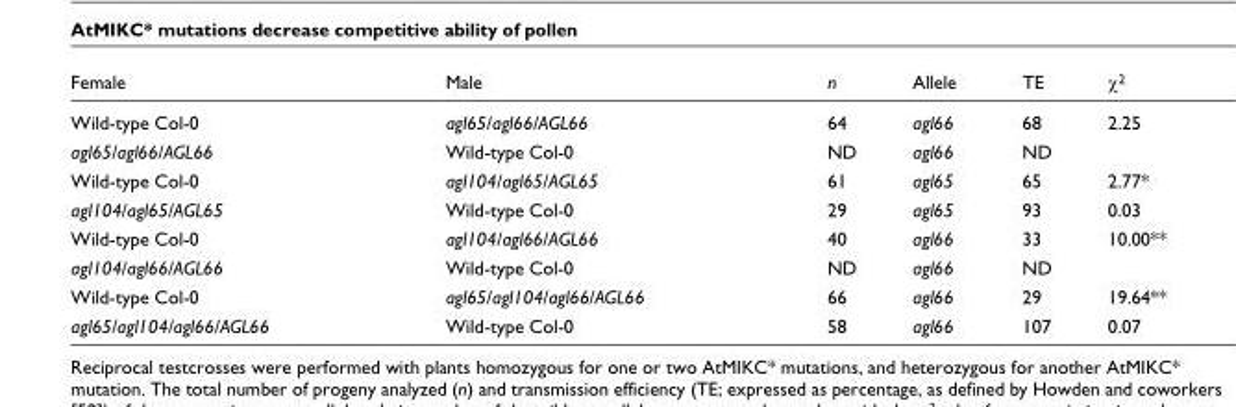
<table><thead><tr><td>Female</td><td>Male</td><td>n</td><td>Allele</td><td>TE</td><td>χ<sup>2</sup></td></tr></thead><tbody><tr><td>Wild-type Col-0</td><td>agl65/agl66/AGL66</td><td>64</td><td>agl66</td><td>68</td><td>2.25</td></tr><tr><td>agl65/agl66/AGL66</td><td>Wild-type Col-0</td><td>ND</td><td>agl66</td><td>ND</td><td></td></tr><tr><td>Wild-type Col-0</td><td>agl104/agl65/AGL65</td><td>61</td><td>agl65</td><td>65</td><td>2.77*</td></tr><tr><td>agl104/agl65/AGL65</td><td>Wild-type Col-0</td><td>29</td><td>agl65</td><td>93</td><td>0.03</td></tr><tr><td>Wild-type Col-0</td><td>agl104/agl66/AGL66</td><td>40</td><td>agl66</td><td>33</td><td>10.00**</td></tr><tr><td>agl104/agl66/AGL66</td><td>Wild-type Col-0</td><td>ND</td><td>agl66</td><td>ND</td><td></td></tr><tr><td>Wild-type Col-0</td><td>agl65/agl104/agl66/AGL66</td><td>66</td><td>agl66</td><td>29</td><td>19.64**</td></tr><tr><td>agl65/agl104/agl66/AGL66</td><td>Wild-type Col-0</td><td>58</td><td>agl66</td><td>107</td><td>0.07</td></tr></tbody></table>